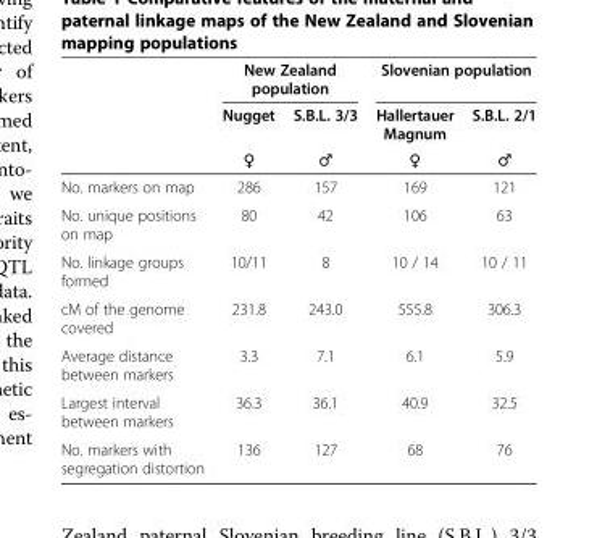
<table><thead><tr><td rowspan="3"></td><td colspan="2">New Zealand population</td><td colspan="2">Slovenian population</td></tr><tr><td rowspan="2">Nugget ♀</td><td rowspan="2">S.B.L. 3/3 ♂</td><td rowspan="2">Hallertauer Magnum ♀</td><td rowspan="2">S.B.L. 2/1 ♂</td></tr><tr></tr></thead><tbody><tr><td>No. markers on map</td><td>286</td><td>157</td><td>169</td><td>121</td></tr><tr><td>No. unique positions on map</td><td>80</td><td>42</td><td>106</td><td>63</td></tr><tr><td>No. linkage groups formed</td><td>10/11</td><td>8</td><td>10 / 14</td><td>10 / 11</td></tr><tr><td>cM of the genome covered</td><td>231.8</td><td>243.0</td><td>555.8</td><td>306.3</td></tr><tr><td>Average distance between markers</td><td>3.3</td><td>7.1</td><td>6.1</td><td>5.9</td></tr><tr><td>Largest interval between markers</td><td>36.3</td><td>36.1</td><td>40.9</td><td>32.5</td></tr><tr><td>No. markers with segregation distortion</td><td>136</td><td>127</td><td>68</td><td>76</td></tr></tbody></table>